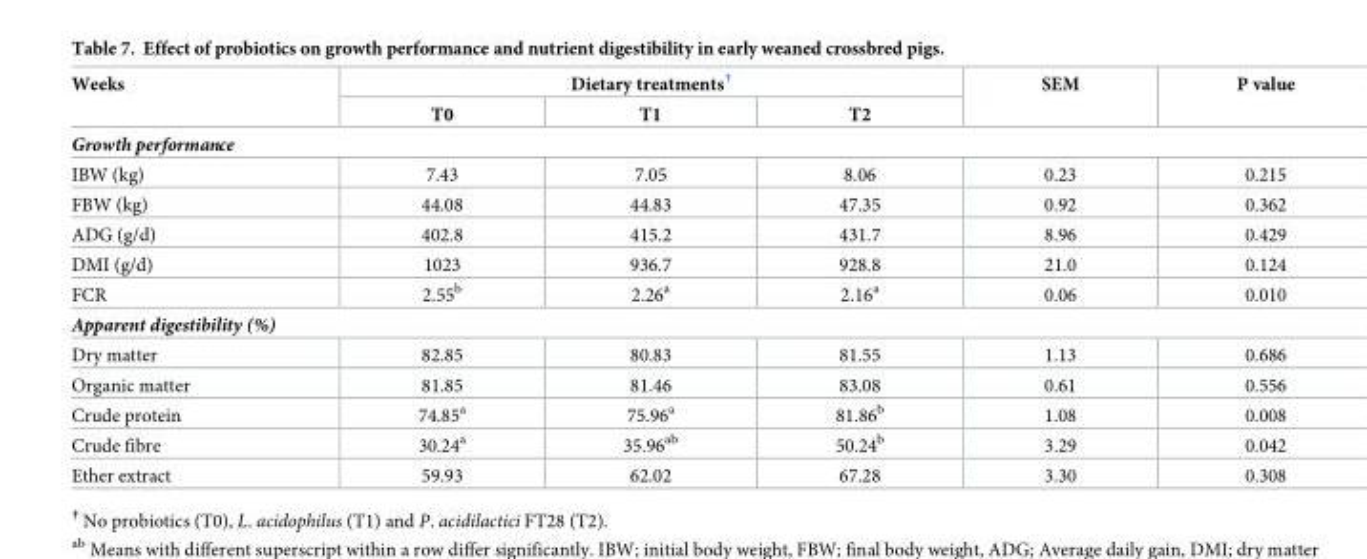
<table><thead><tr><td rowspan="2">Weeks</td><td colspan="3">Dietary treatments<sup>†</sup></td><td rowspan="2">SEM</td><td rowspan="2">P value</td></tr><tr><td>T0</td><td>T1</td><td>T2</td></tr></thead><tbody><tr><td colspan="6">Growth performance</td></tr><tr><td>IBW (kg)</td><td>7.43</td><td>7.05</td><td>8.06</td><td>0.23</td><td>0.215</td></tr><tr><td>FBW (kg)</td><td>44.08</td><td>44.83</td><td>47.35</td><td>0.92</td><td>0.362</td></tr><tr><td>ADG (g/d)</td><td>402.8</td><td>415.2</td><td>431.7</td><td>8.96</td><td>0.429</td></tr><tr><td>DMI (g/d)</td><td>1023</td><td>936.7</td><td>928.8</td><td>21.0</td><td>0.124</td></tr><tr><td>FCR</td><td>2.55<sup>b</sup></td><td>2.26<sup>a</sup></td><td>2.16<sup>a</sup></td><td>0.06</td><td>0.010</td></tr><tr><td colspan="6">Apparent digestibility (%)</td></tr><tr><td>Dry matter</td><td>82.85</td><td>80.83</td><td>81.55</td><td>1.13</td><td>0.686</td></tr><tr><td>Organic matter</td><td>81.85</td><td>81.46</td><td>83.08</td><td>0.61</td><td>0.556</td></tr><tr><td>Crude protein</td><td>74.85<sup>a</sup></td><td>75.96<sup>a</sup></td><td>81.86<sup>b</sup></td><td>1.08</td><td>0.008</td></tr><tr><td>Crude fibre</td><td>30.24<sup>a</sup></td><td>35.96<sup>ab</sup></td><td>50.24<sup>b</sup></td><td>3.29</td><td>0.042</td></tr><tr><td>Ether extract</td><td>59.93</td><td>62.02</td><td>67.28</td><td>3.30</td><td>0.308</td></tr></tbody></table>